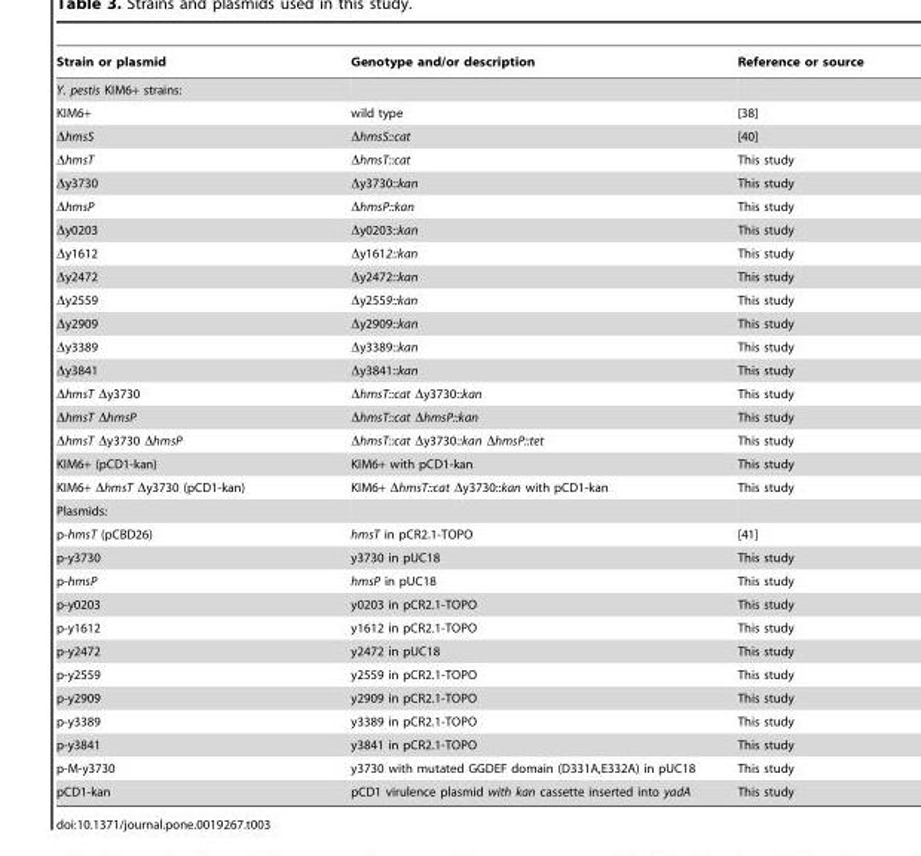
<table><thead><tr><td>Strain or plasmid</td><td>Genotype and/or description</td><td>Reference or source</td></tr></thead><tbody><tr><td colspan="3">Y. pestis KIM6+ strains:</td></tr><tr><td>KIM6+</td><td>wild type</td><td>[38]</td></tr><tr><td>ΔhmsS</td><td>ΔhmsS::cat</td><td>[40]</td></tr><tr><td>ΔhmsT</td><td>ΔhmsT::cat</td><td>This study</td></tr><tr><td>Δy3730</td><td>Δy3730::kan</td><td>This study</td></tr><tr><td>ΔhmsP</td><td>ΔhmsP::kan</td><td>This study</td></tr><tr><td>Δy0203</td><td>Δy0203::kan</td><td>This study</td></tr><tr><td>Δy1612</td><td>Δy1612::kan</td><td>This study</td></tr><tr><td>Δy2472</td><td>Δy2472::kan</td><td>This study</td></tr><tr><td>Δy2559</td><td>Δy2559::kan</td><td>This study</td></tr><tr><td>Δy2909</td><td>Δy2909::kan</td><td>This study</td></tr><tr><td>Δy3389</td><td>Δy3389::kan</td><td>This study</td></tr><tr><td>Δy3841</td><td>Δy3841::kan</td><td>This study</td></tr><tr><td>ΔhmsT Δy3730</td><td>ΔhmsT::cat Δy3730::kan</td><td>This study</td></tr><tr><td>ΔhmsT ΔhmsP</td><td>ΔhmsT::cat ΔhmsP::kan</td><td>This study</td></tr><tr><td>ΔhmsT Δy3730 ΔhmsP</td><td>ΔhmsT::cat Δy3730::kan ΔhmsP::tet</td><td>This study</td></tr><tr><td>KIM6+ (pCD1-kan)</td><td>KIM6+ with pCD1-kan</td><td>This study</td></tr><tr><td>KIM6+ ΔhmsT Δy3730 (pCD1-kan)</td><td>KIM6+ ΔhmsT::cat Δy3730::kan with pCD1-kan</td><td>This study</td></tr><tr><td colspan="3">Plasmids:</td></tr><tr><td>p-hmsT (pCBD26)</td><td>hmsT in pCR2.1-TOPO</td><td>[41]</td></tr><tr><td>p-y3730</td><td>y3730 in pUC18</td><td>This study</td></tr><tr><td>p-hmsP</td><td>hmsP in pUC18</td><td>This study</td></tr><tr><td>p-y0203</td><td>y0203 in pCR2.1-TOPO</td><td>This study</td></tr><tr><td>p-y1612</td><td>y1612 in pCR2.1-TOPO</td><td>This study</td></tr><tr><td>p-y2472</td><td>y2472 in pUC18</td><td>This study</td></tr><tr><td>p-y2559</td><td>y2559 in pCR2.1-TOPO</td><td>This study</td></tr><tr><td>p-y2909</td><td>y2909 in pCR2.1-TOPO</td><td>This study</td></tr><tr><td>p-y3389</td><td>y3389 in pCR2.1-TOPO</td><td>This study</td></tr><tr><td>p-y3841</td><td>y3841 in pCR2.1-TOPO</td><td>This study</td></tr><tr><td>p-M-y3730</td><td>y3730 with mutated GGDEF domain (D331A,E332A) in pUC18</td><td>This study</td></tr><tr><td>pCD1-kan</td><td>pCD1 virulence plasmid with kan cassette inserted into yadA</td><td>This study</td></tr></tbody></table>